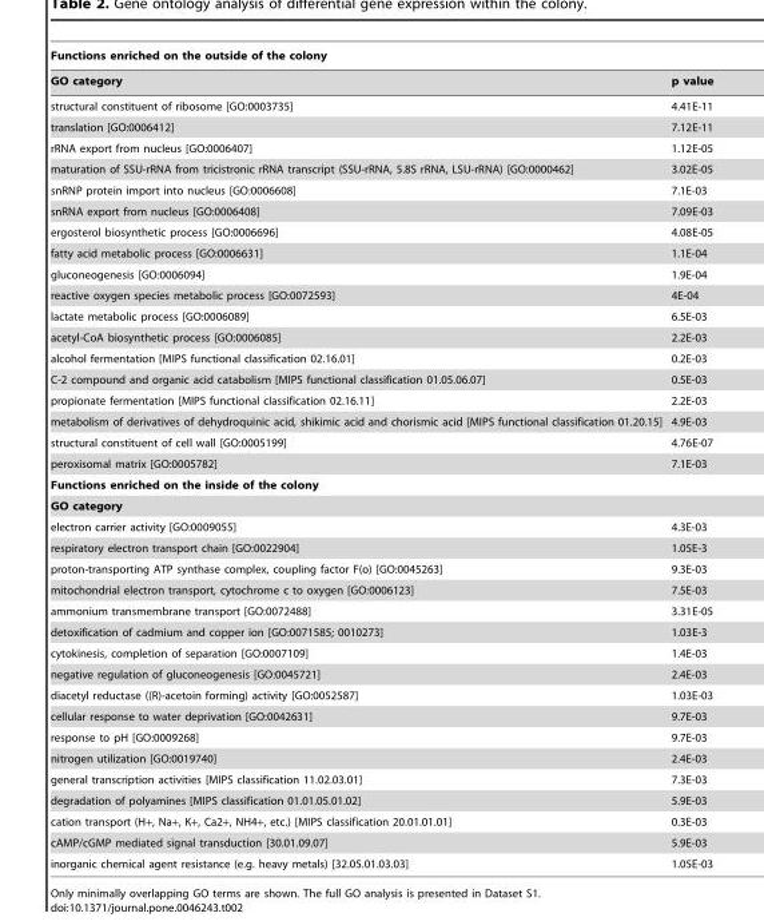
<table><thead><tr><td colspan="2">Functions enriched on the outside of the colony</td></tr><tr><td>GO category</td><td>p value</td></tr></thead><tbody><tr><td>structural constituent of ribosome [GO:0003735]</td><td>4.41E-11</td></tr><tr><td>translation [GO:0006412]</td><td>7.12E-11</td></tr><tr><td>rRNA export from nucleus [GO:0006407]</td><td>1.12E-05</td></tr><tr><td>maturation of SSU-rRNA from tricistronic rRNA transcript (SSU-rRNA, 5.8S rRNA, LSU-rRNA) [GO:0000462]</td><td>3.02E-05</td></tr><tr><td>snRNP protein import into nucleus [GO:0006608]</td><td>7.1E-03</td></tr><tr><td>snRNA export from nucleus [GO:0006408]</td><td>7.09E-03</td></tr><tr><td>ergosterol biosynthetic process [GO:0006696]</td><td>4.08E-05</td></tr><tr><td>fatty acid metabolic process [GO:0006631]</td><td>1.1E-04</td></tr><tr><td>gluconeogenesis [GO:0006094]</td><td>1.9E-04</td></tr><tr><td>reactive oxygen species metabolic process [GO:0072593]</td><td>4E-04</td></tr><tr><td>lactate metabolic process [GO:0006089]</td><td>6.5E-03</td></tr><tr><td>acetyl-CoA biosynthetic process [GO:0006085]</td><td>2.2E-03</td></tr><tr><td>alcohol fermentation [MIPS functional classification 02.16.01]</td><td>0.2E-03</td></tr><tr><td>C-2 compound and organic acid catabolism [MIPS functional classification 01.05.06.07]</td><td>0.5E-03</td></tr><tr><td>propionate fermentation [MIPS functional classification 02.16.11]</td><td>2.2E-03</td></tr><tr><td>metabolism of derivatives of dehydroquinic acid, shikimic acid and chorismic acid [MIPS functional classification 01.20.15]</td><td>4.9E-03</td></tr><tr><td>structural constituent of cell wall [GO:0005199]</td><td>4.76E-07</td></tr><tr><td>peroxisomal matrix [GO:0005782]</td><td>7.1E-03</td></tr><tr><td colspan="2">Functions enriched on the inside of the colony</td></tr><tr><td colspan="2">GO category</td></tr><tr><td>electron carrier activity [GO:0009055]</td><td>4.3E-03</td></tr><tr><td>respiratory electron transport chain [GO:0022904]</td><td>1.05E-3</td></tr><tr><td>proton-transporting ATP synthase complex, coupling factor F(o) [GO:0045263]</td><td>9.3E-03</td></tr><tr><td>mitochondrial electron transport, cytochrome c to oxygen [GO:0006123]</td><td>7.5E-03</td></tr><tr><td>ammonium transmembrane transport [GO:0072488]</td><td>3.31E-05</td></tr><tr><td>detoxification of cadmium and copper ion [GO:0071585; 0010273]</td><td>1.03E-3</td></tr><tr><td>cytokinesis, completion of separation [GO:0007109]</td><td>1.4E-03</td></tr><tr><td>negative regulation of gluconeogenesis [GO:0045721]</td><td>2.4E-03</td></tr><tr><td>diacetyl reductase ((R)-acetoin forming) activity [GO:0052587]</td><td>1.03E-03</td></tr><tr><td>cellular response to water deprivation [GO:0042631]</td><td>9.7E-03</td></tr><tr><td>response to pH [GO:0009268]</td><td>9.7E-03</td></tr><tr><td>nitrogen utilization [GO:0019740]</td><td>2.4E-03</td></tr><tr><td>general transcription activities [MIPS classification 11.02.03.01]</td><td>7.3E-03</td></tr><tr><td>degradation of polyamines [MIPS classification 01.01.05.01.02]</td><td>5.9E-03</td></tr><tr><td>cation transport (H+, Na+, K+, Ca2+, NH4+, etc.) [MIPS classification 20.01.01.01]</td><td>0.3E-03</td></tr><tr><td>cAMP/cGMP mediated signal transduction [30.01.09.07]</td><td>5.9E-03</td></tr><tr><td>inorganic chemical agent resistance (e.g. heavy metals) [32.05.01.03.03]</td><td>1.05E-03</td></tr></tbody></table>